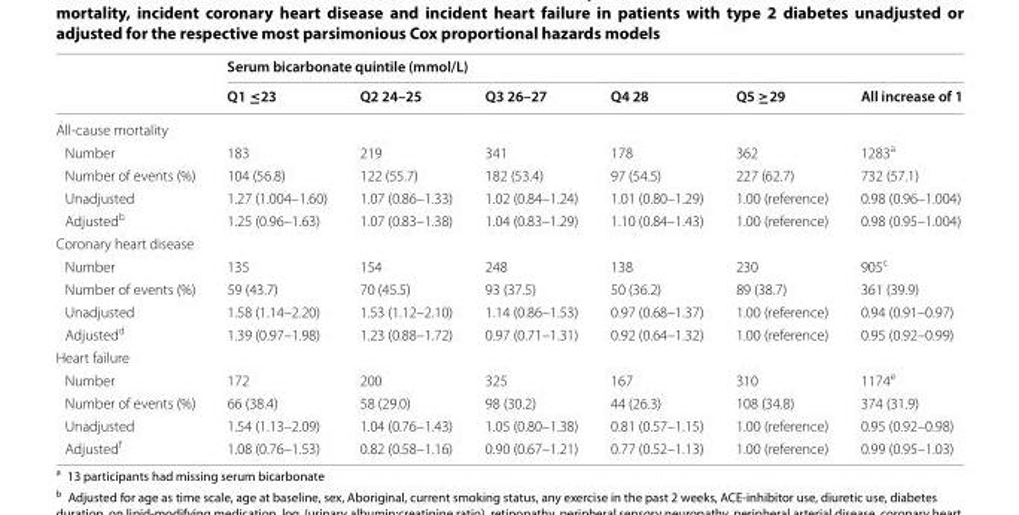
<table><thead><tr><td rowspan="2"></td><td colspan="6">Serum bicarbonate quintile (mmol/L)</td></tr><tr><td>Q1 ≤23</td><td>Q2 24–25</td><td>Q3 26–27</td><td>Q4 28</td><td>Q5 ≥29</td><td>All increase of 1</td></tr></thead><tbody><tr><td colspan="7">All-cause mortality</td></tr><tr><td>Number</td><td>183</td><td>219</td><td>341</td><td>178</td><td>362</td><td>1283<sup>a</sup></td></tr><tr><td>Number of events (%)</td><td>104 (56.8)</td><td>122 (55.7)</td><td>182 (53.4)</td><td>97 (54.5)</td><td>227 (62.7)</td><td>732 (57.1)</td></tr><tr><td>Unadjusted</td><td>1.27 (1.004–1.60)</td><td>1.07 (0.86–1.33)</td><td>1.02 (0.84–1.24)</td><td>1.01 (0.80–1.29)</td><td>1.00 (reference)</td><td>0.98 (0.96–1.004)</td></tr><tr><td>Adjusted<sup>b</sup></td><td>1.25 (0.96–1.63)</td><td>1.07 (0.83–1.38)</td><td>1.04 (0.83–1.29)</td><td>1.10 (0.84–1.43)</td><td>1.00 (reference)</td><td>0.98 (0.95–1.004)</td></tr><tr><td colspan="7">Coronary heart disease</td></tr><tr><td>Number</td><td>135</td><td>154</td><td>248</td><td>138</td><td>230</td><td>905<sup>c</sup></td></tr><tr><td>Number of events (%)</td><td>59 (43.7)</td><td>70 (45.5)</td><td>93 (37.5)</td><td>50 (36.2)</td><td>89 (38.7)</td><td>361 (39.9)</td></tr><tr><td>Unadjusted</td><td>1.58 (1.14–2.20)</td><td>1.53 (1.12–2.10)</td><td>1.14 (0.86–1.53)</td><td>0.97 (0.68–1.37)</td><td>1.00 (reference)</td><td>0.94 (0.91–0.97)</td></tr><tr><td>Adjusted<sup>d</sup></td><td>1.39 (0.97–1.98)</td><td>1.23 (0.88–1.72)</td><td>0.97 (0.71–1.31)</td><td>0.92 (0.64–1.32)</td><td>1.00 (reference)</td><td>0.95 (0.92–0.99)</td></tr><tr><td colspan="7">Heart failure</td></tr><tr><td>Number</td><td>172</td><td>200</td><td>325</td><td>167</td><td>310</td><td>1174<sup>e</sup></td></tr><tr><td>Number of events (%)</td><td>66 (38.4)</td><td>58 (29.0)</td><td>98 (30.2)</td><td>44 (26.3)</td><td>108 (34.8)</td><td>374 (31.9)</td></tr><tr><td>Unadjusted</td><td>1.54 (1.13–2.09)</td><td>1.04 (0.76–1.43)</td><td>1.05 (0.80–1.38)</td><td>0.81 (0.57–1.15)</td><td>1.00 (reference)</td><td>0.95 (0.92–0.98)</td></tr><tr><td>Adjusted<sup>f</sup></td><td>1.08 (0.76–1.53)</td><td>0.82 (0.58–1.16)</td><td>0.90 (0.67–1.21)</td><td>0.77 (0.52–1.13)</td><td>1.00 (reference)</td><td>0.99 (0.95–1.03)</td></tr></tbody></table>